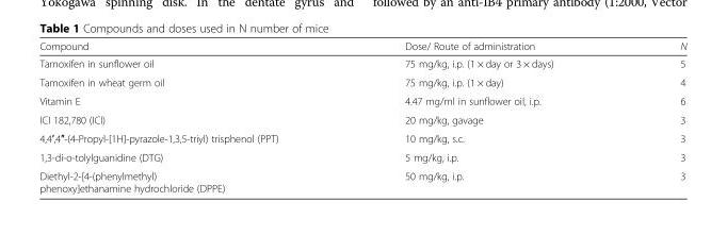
<table><thead><tr><td>Compound</td><td>Dose/ Route of administration</td><td>N</td></tr></thead><tbody><tr><td>Tamoxifen in sunflower oil</td><td>75 mg/kg, i.p. (1 × day or 3 × days)</td><td>5</td></tr><tr><td>Tamoxifen in wheat germ oil</td><td>75 mg/kg, i.p. (1 × day)</td><td>4</td></tr><tr><td>Vitamin E</td><td>4.47 mg/ml in sunflower oil, i.p.</td><td>6</td></tr><tr><td>ICI 182,780 (ICI)</td><td>20 mg/kg, gavage</td><td>3</td></tr><tr><td>4,4′,4″-(4-Propyl-[1H]-pyrazole-1,3,5-triyl) trisphenol (PPT)</td><td>10 mg/kg, s.c.</td><td>3</td></tr><tr><td>1,3-di-o-tolylguanidine (DTG)</td><td>5 mg/kg, i.p.</td><td>3</td></tr><tr><td>Diethyl-2-[4-(phenylmethyl) phenoxy]ethanamine hydrochloride (DPPE)</td><td>50 mg/kg, i.p.</td><td>3</td></tr></tbody></table>